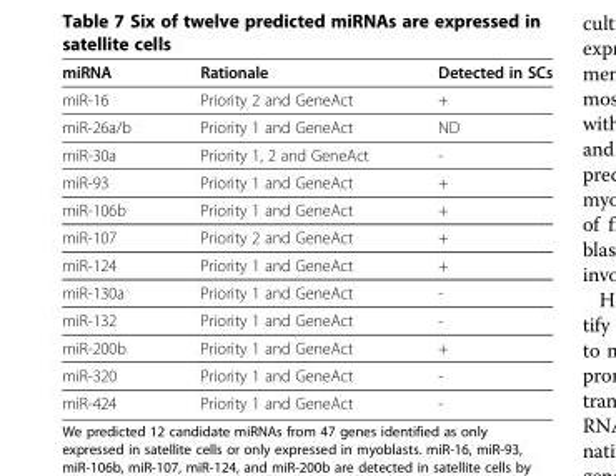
<table><thead><tr><td>miRNA</td><td>Rationale</td><td>Detected in SCs</td></tr></thead><tbody><tr><td>miR-16</td><td>Priority 2 and GeneAct</td><td>+</td></tr><tr><td>miR-26a/b</td><td>Priority 1 and GeneAct</td><td>ND</td></tr><tr><td>miR-30a</td><td>Priority 1, 2 and GeneAct</td><td>-</td></tr><tr><td>miR-93</td><td>Priority 1 and GeneAct</td><td>+</td></tr><tr><td>miR-106b</td><td>Priority 1 and GeneAct</td><td>+</td></tr><tr><td>miR-107</td><td>Priority 2 and GeneAct</td><td>+</td></tr><tr><td>miR-124</td><td>Priority 1 and GeneAct</td><td>+</td></tr><tr><td>miR-130a</td><td>Priority 1 and GeneAct</td><td>-</td></tr><tr><td>miR-132</td><td>Priority 1 and GeneAct</td><td>-</td></tr><tr><td>miR-200b</td><td>Priority 1 and GeneAct</td><td>+</td></tr><tr><td>miR-320</td><td>Priority 1 and GeneAct</td><td>-</td></tr><tr><td>miR-424</td><td>Priority 1 and GeneAct</td><td>-</td></tr></tbody></table>